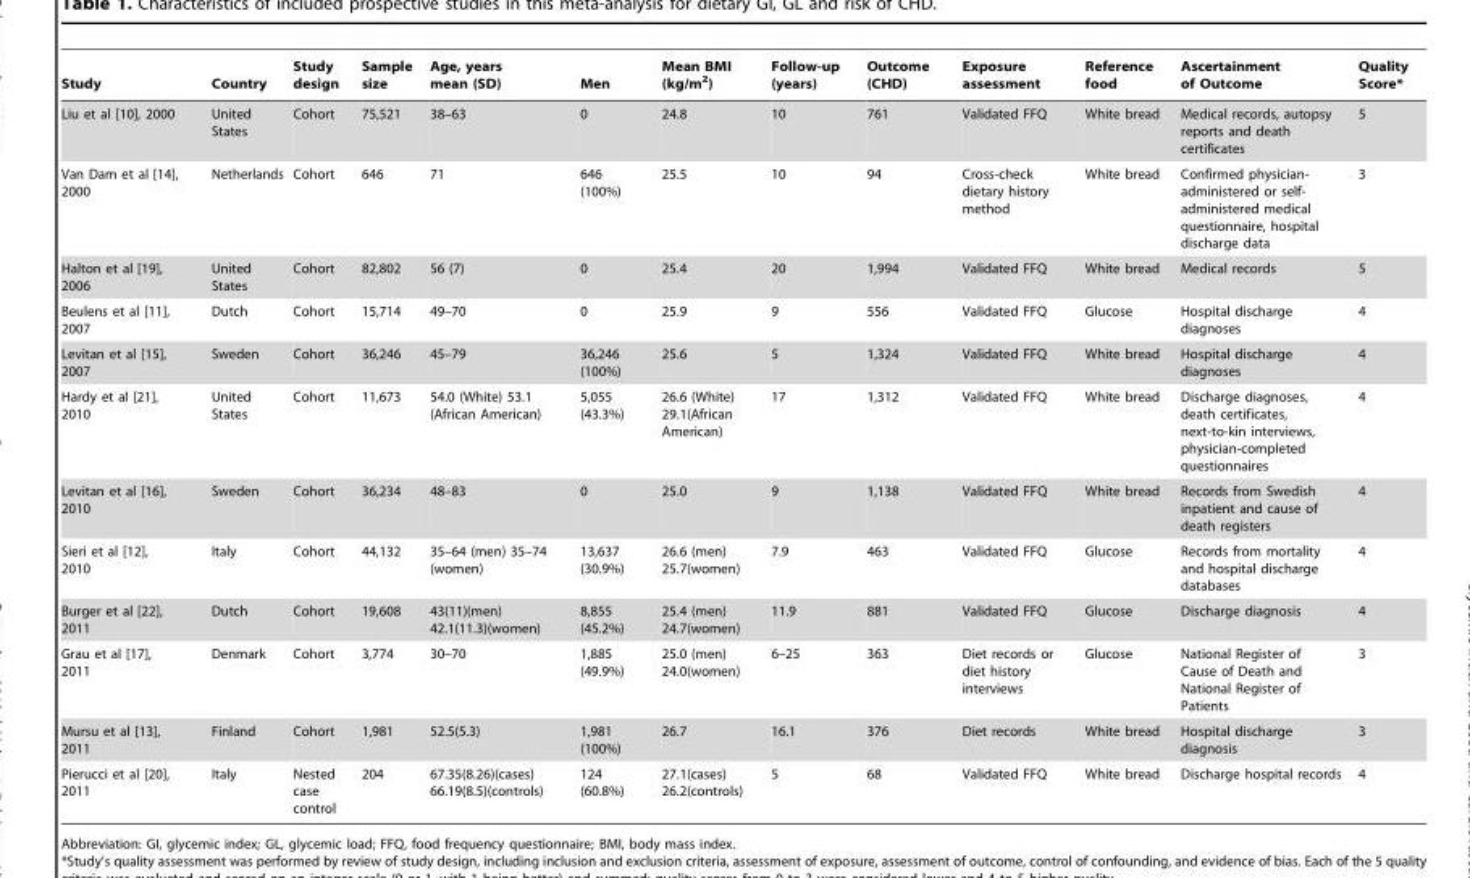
<table><thead><tr><td>Study</td><td>Country</td><td>Study design</td><td>Sample size</td><td>Age, years mean (SD)</td><td>Men</td><td>Mean BMI (kg/m<sup>2</sup>)</td><td>Follow-up (years)</td><td>Outcome (CHD)</td><td>Exposure assessment</td><td>Reference food</td><td>Ascertainment of Outcome</td><td>Quality Score*</td></tr></thead><tbody><tr><td>Liu et al [10], 2000</td><td>United States</td><td>Cohort</td><td>75,521</td><td>38–63</td><td>0</td><td>24.8</td><td>10</td><td>761</td><td>Validated FFQ</td><td>White bread</td><td>Medical records, autopsy reports and death certificates</td><td>5</td></tr><tr><td>Van Dam et al [14], 2000</td><td>Netherlands</td><td>Cohort</td><td>646</td><td>71</td><td>646 (100%)</td><td>25.5</td><td>10</td><td>94</td><td>Cross-check dietary history method</td><td>White bread</td><td>Confirmed physician- administered or self- administered medical questionnaire, hospital discharge data</td><td>3</td></tr><tr><td>Halton et al [19], 2006</td><td>United States</td><td>Cohort</td><td>82,802</td><td>56 (7)</td><td>0</td><td>25.4</td><td>20</td><td>1,994</td><td>Validated FFQ</td><td>White bread</td><td>Medical records</td><td>5</td></tr><tr><td>Beulens et al [11], 2007</td><td>Dutch</td><td>Cohort</td><td>15,714</td><td>49–70</td><td>0</td><td>25.9</td><td>9</td><td>556</td><td>Validated FFQ</td><td>Glucose</td><td>Hospital discharge diagnoses</td><td>4</td></tr><tr><td>Levitan et al [15], 2007</td><td>Sweden</td><td>Cohort</td><td>36,246</td><td>45–79</td><td>36,246 (100%)</td><td>25.6</td><td>5</td><td>1,324</td><td>Validated FFQ</td><td>White bread</td><td>Hospital discharge diagnoses</td><td>4</td></tr><tr><td>Hardy et al [21], 2010</td><td>United States</td><td>Cohort</td><td>11,673</td><td>54.0 (White) 53.1 (African American)</td><td>5,055 (43.3%)</td><td>26.6 (White) 29.1(African American)</td><td>17</td><td>1,312</td><td>Validated FFQ</td><td>White bread</td><td>Discharge diagnoses, death certificates, next-to-kin interviews, physician-completed questionnaires</td><td>4</td></tr><tr><td>Levitan et al [16], 2010</td><td>Sweden</td><td>Cohort</td><td>36,234</td><td>48–83</td><td>0</td><td>25.0</td><td>9</td><td>1,138</td><td>Validated FFQ</td><td>White bread</td><td>Records from Swedish inpatient and cause of death registers</td><td>4</td></tr><tr><td>Sieri et al [12], 2010</td><td>Italy</td><td>Cohort</td><td>44,132</td><td>35–64 (men) 35–74 (women)</td><td>13,637 (30.9%)</td><td>26.6 (men) 25.7(women)</td><td>7.9</td><td>463</td><td>Validated FFQ</td><td>Glucose</td><td>Records from mortality and hospital discharge databases</td><td>4</td></tr><tr><td>Burger et al [22], 2011</td><td>Dutch</td><td>Cohort</td><td>19,608</td><td>43(11)(men) 42.1(11.3)(women)</td><td>8,855 (45.2%)</td><td>25.4 (men) 24.7(women)</td><td>11.9</td><td>881</td><td>Validated FFQ</td><td>Glucose</td><td>Discharge diagnosis</td><td>4</td></tr><tr><td>Grau et al [17], 2011</td><td>Denmark</td><td>Cohort</td><td>3,774</td><td>30–70</td><td>1,885 (49.9%)</td><td>25.0 (men) 24.0(women)</td><td>6–25</td><td>363</td><td>Diet records or diet history interviews</td><td>Glucose</td><td>National Register of Cause of Death and National Register of Patients</td><td>3</td></tr><tr><td>Mursu et al [13], 2011</td><td>Finland</td><td>Cohort</td><td>1,981</td><td>52.5(5.3)</td><td>1,981 (100%)</td><td>26.7</td><td>16.1</td><td>376</td><td>Diet records</td><td>White bread</td><td>Hospital discharge diagnosis</td><td>3</td></tr><tr><td>Pierucci et al [20], 2011</td><td>Italy</td><td>Nested case control</td><td>204</td><td>67.35(8.26)(cases) 66.19(8.5)(controls)</td><td>124 (60.8%)</td><td>27.1(cases) 26.2(controls)</td><td>5</td><td>68</td><td>Validated FFQ</td><td>White bread</td><td>Discharge hospital records</td><td>4</td></tr></tbody></table>